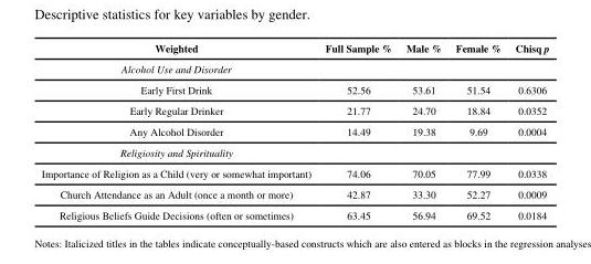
<table><thead><tr><td>Weighted</td><td>Full Sample %</td><td>Male %</td><td>Female %</td><td>Chisq p</td></tr></thead><tbody><tr><td colspan="5">Alcohol Use and Disorder</td></tr><tr><td>Early First Drink</td><td>52.56</td><td>53.61</td><td>51.54</td><td>0.6306</td></tr><tr><td>Early Regular Drinker</td><td>21.77</td><td>24.70</td><td>18.84</td><td>0.0352</td></tr><tr><td>Any Alcohol Disorder</td><td>14.49</td><td>19.38</td><td>9.69</td><td>0.0004</td></tr><tr><td colspan="5">Religiosity and Spirituality</td></tr><tr><td>Importance of Religion as a Child (very or somewhat important)</td><td>74.06</td><td>70.05</td><td>77.99</td><td>0.0338</td></tr><tr><td>Church Attendance as an Adult (once a month or more)</td><td>42.87</td><td>33.30</td><td>52.27</td><td>0.0009</td></tr><tr><td>Religious Beliefs Guide Decisions (often or sometimes)</td><td>63.45</td><td>56.94</td><td>69.52</td><td>0.0184</td></tr></tbody></table>